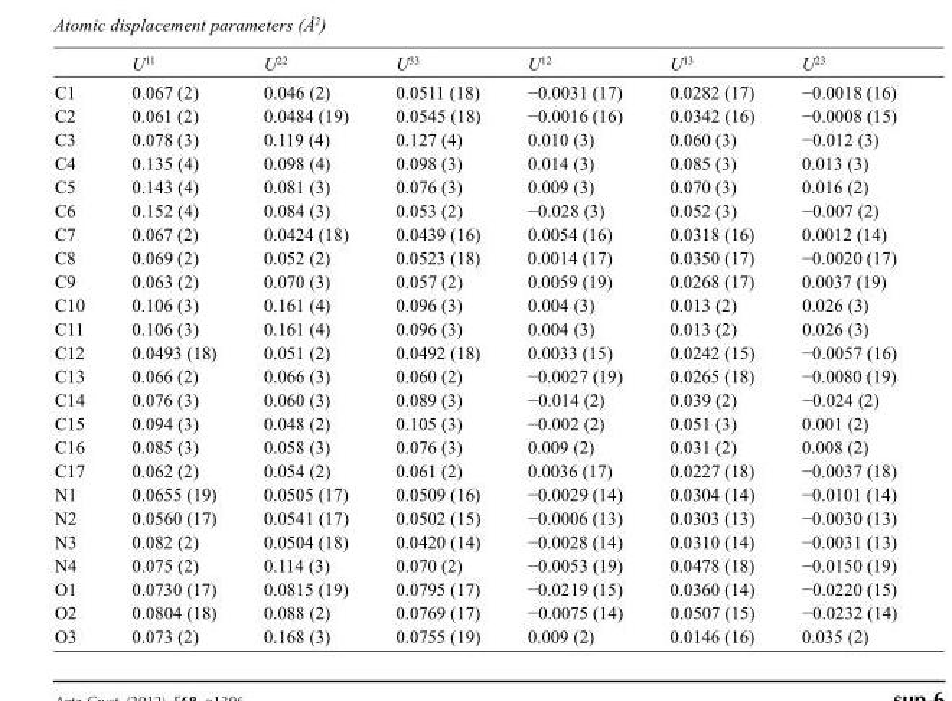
<table><thead><tr><td></td><td>U<sup>11</sup></td><td>U<sup>22</sup></td><td>U<sup>33</sup></td><td>U<sup>12</sup></td><td>U<sup>13</sup></td><td>U<sup>23</sup></td></tr></thead><tbody><tr><td>C1</td><td>0.067 (2)</td><td>0.046 (2)</td><td>0.0511 (18)</td><td>−0.0031 (17)</td><td>0.0282 (17)</td><td>−0.0018 (16)</td></tr><tr><td>C2</td><td>0.061 (2)</td><td>0.0484 (19)</td><td>0.0545 (18)</td><td>−0.0016 (16)</td><td>0.0342 (16)</td><td>−0.0008 (15)</td></tr><tr><td>C3</td><td>0.078 (3)</td><td>0.119 (4)</td><td>0.127 (4)</td><td>0.010 (3)</td><td>0.060 (3)</td><td>−0.012 (3)</td></tr><tr><td>C4</td><td>0.135 (4)</td><td>0.098 (4)</td><td>0.098 (3)</td><td>0.014 (3)</td><td>0.085 (3)</td><td>0.013 (3)</td></tr><tr><td>C5</td><td>0.143 (4)</td><td>0.081 (3)</td><td>0.076 (3)</td><td>0.009 (3)</td><td>0.070 (3)</td><td>0.016 (2)</td></tr><tr><td>C6</td><td>0.152 (4)</td><td>0.084 (3)</td><td>0.053 (2)</td><td>−0.028 (3)</td><td>0.052 (3)</td><td>−0.007 (2)</td></tr><tr><td>C7</td><td>0.067 (2)</td><td>0.0424 (18)</td><td>0.0439 (16)</td><td>0.0054 (16)</td><td>0.0318 (16)</td><td>0.0012 (14)</td></tr><tr><td>C8</td><td>0.069 (2)</td><td>0.052 (2)</td><td>0.0523 (18)</td><td>0.0014 (17)</td><td>0.0350 (17)</td><td>−0.0020 (17)</td></tr><tr><td>C9</td><td>0.063 (2)</td><td>0.070 (3)</td><td>0.057 (2)</td><td>0.0059 (19)</td><td>0.0268 (17)</td><td>0.0037 (19)</td></tr><tr><td>C10</td><td>0.106 (3)</td><td>0.161 (4)</td><td>0.096 (3)</td><td>0.004 (3)</td><td>0.013 (2)</td><td>0.026 (3)</td></tr><tr><td>C11</td><td>0.106 (3)</td><td>0.161 (4)</td><td>0.096 (3)</td><td>0.004 (3)</td><td>0.013 (2)</td><td>0.026 (3)</td></tr><tr><td>C12</td><td>0.0493 (18)</td><td>0.051 (2)</td><td>0.0492 (18)</td><td>0.0033 (15)</td><td>0.0242 (15)</td><td>−0.0057 (16)</td></tr><tr><td>C13</td><td>0.066 (2)</td><td>0.066 (3)</td><td>0.060 (2)</td><td>−0.0027 (19)</td><td>0.0265 (18)</td><td>−0.0080 (19)</td></tr><tr><td>C14</td><td>0.076 (3)</td><td>0.060 (3)</td><td>0.089 (3)</td><td>−0.014 (2)</td><td>0.039 (2)</td><td>−0.024 (2)</td></tr><tr><td>C15</td><td>0.094 (3)</td><td>0.048 (2)</td><td>0.105 (3)</td><td>−0.002 (2)</td><td>0.051 (3)</td><td>0.001 (2)</td></tr><tr><td>C16</td><td>0.085 (3)</td><td>0.058 (3)</td><td>0.076 (3)</td><td>0.009 (2)</td><td>0.031 (2)</td><td>0.008 (2)</td></tr><tr><td>C17</td><td>0.062 (2)</td><td>0.054 (2)</td><td>0.061 (2)</td><td>0.0036 (17)</td><td>0.0227 (18)</td><td>−0.0037 (18)</td></tr><tr><td>N1</td><td>0.0655 (19)</td><td>0.0505 (17)</td><td>0.0509 (16)</td><td>−0.0029 (14)</td><td>0.0304 (14)</td><td>−0.0101 (14)</td></tr><tr><td>N2</td><td>0.0560 (17)</td><td>0.0541 (17)</td><td>0.0502 (15)</td><td>−0.0006 (13)</td><td>0.0303 (13)</td><td>−0.0030 (13)</td></tr><tr><td>N3</td><td>0.082 (2)</td><td>0.0504 (18)</td><td>0.0420 (14)</td><td>−0.0028 (14)</td><td>0.0310 (14)</td><td>−0.0031 (13)</td></tr><tr><td>N4</td><td>0.075 (2)</td><td>0.114 (3)</td><td>0.070 (2)</td><td>−0.0053 (19)</td><td>0.0478 (18)</td><td>−0.0150 (19)</td></tr><tr><td>O1</td><td>0.0730 (17)</td><td>0.0815 (19)</td><td>0.0795 (17)</td><td>−0.0219 (15)</td><td>0.0360 (14)</td><td>−0.0220 (15)</td></tr><tr><td>O2</td><td>0.0804 (18)</td><td>0.088 (2)</td><td>0.0769 (17)</td><td>−0.0075 (14)</td><td>0.0507 (15)</td><td>−0.0232 (14)</td></tr><tr><td>O3</td><td>0.073 (2)</td><td>0.168 (3)</td><td>0.0755 (19)</td><td>0.009 (2)</td><td>0.0146 (16)</td><td>0.035 (2)</td></tr></tbody></table>